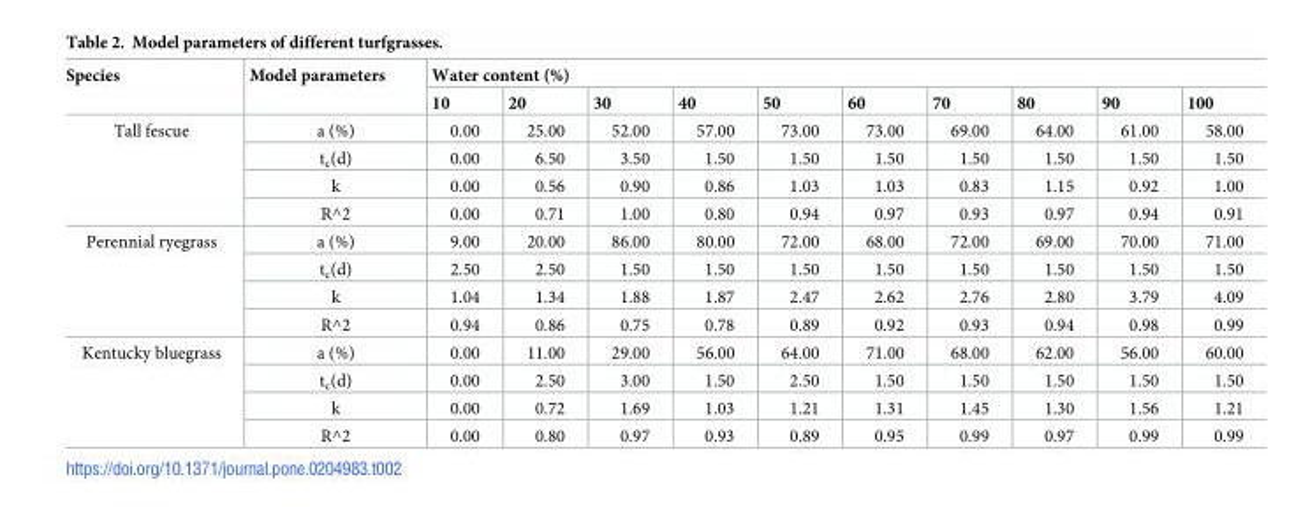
<table><thead><tr><td rowspan="2">Species</td><td rowspan="2">Model parameters</td><td colspan="10">Water content (%)</td></tr><tr><td>10</td><td>20</td><td>30</td><td>40</td><td>50</td><td>60</td><td>70</td><td>80</td><td>90</td><td>100</td></tr></thead><tbody><tr><td rowspan="4">Tall fescue</td><td>a (%)</td><td>0.00</td><td>25.00</td><td>52.00</td><td>57.00</td><td>73.00</td><td>73.00</td><td>69.00</td><td>64.00</td><td>61.00</td><td>58.00</td></tr><tr><td>t<sub>c</sub>(d)</td><td>0.00</td><td>6.50</td><td>3.50</td><td>1.50</td><td>1.50</td><td>1.50</td><td>1.50</td><td>1.50</td><td>1.50</td><td>1.50</td></tr><tr><td>k</td><td>0.00</td><td>0.56</td><td>0.90</td><td>0.86</td><td>1.03</td><td>1.03</td><td>0.83</td><td>1.15</td><td>0.92</td><td>1.00</td></tr><tr><td>R^2</td><td>0.00</td><td>0.71</td><td>1.00</td><td>0.80</td><td>0.94</td><td>0.97</td><td>0.93</td><td>0.97</td><td>0.94</td><td>0.91</td></tr><tr><td rowspan="4">Perennial ryegrass</td><td>a (%)</td><td>9.00</td><td>20.00</td><td>86.00</td><td>80.00</td><td>72.00</td><td>68.00</td><td>72.00</td><td>69.00</td><td>70.00</td><td>71.00</td></tr><tr><td>t<sub>c</sub>(d)</td><td>2.50</td><td>2.50</td><td>1.50</td><td>1.50</td><td>1.50</td><td>1.50</td><td>1.50</td><td>1.50</td><td>1.50</td><td>1.50</td></tr><tr><td>k</td><td>1.04</td><td>1.34</td><td>1.88</td><td>1.87</td><td>2.47</td><td>2.62</td><td>2.76</td><td>2.80</td><td>3.79</td><td>4.09</td></tr><tr><td>R^2</td><td>0.94</td><td>0.86</td><td>0.75</td><td>0.78</td><td>0.89</td><td>0.92</td><td>0.93</td><td>0.94</td><td>0.98</td><td>0.99</td></tr><tr><td rowspan="4">Kentucky bluegrass</td><td>a (%)</td><td>0.00</td><td>11.00</td><td>29.00</td><td>56.00</td><td>64.00</td><td>71.00</td><td>68.00</td><td>62.00</td><td>56.00</td><td>60.00</td></tr><tr><td>t<sub>c</sub>(d)</td><td>0.00</td><td>2.50</td><td>3.00</td><td>1.50</td><td>2.50</td><td>1.50</td><td>1.50</td><td>1.50</td><td>1.50</td><td>1.50</td></tr><tr><td>k</td><td>0.00</td><td>0.72</td><td>1.69</td><td>1.03</td><td>1.21</td><td>1.31</td><td>1.45</td><td>1.30</td><td>1.56</td><td>1.21</td></tr><tr><td>R^2</td><td>0.00</td><td>0.80</td><td>0.97</td><td>0.93</td><td>0.89</td><td>0.95</td><td>0.99</td><td>0.97</td><td>0.99</td><td>0.99</td></tr></tbody></table>